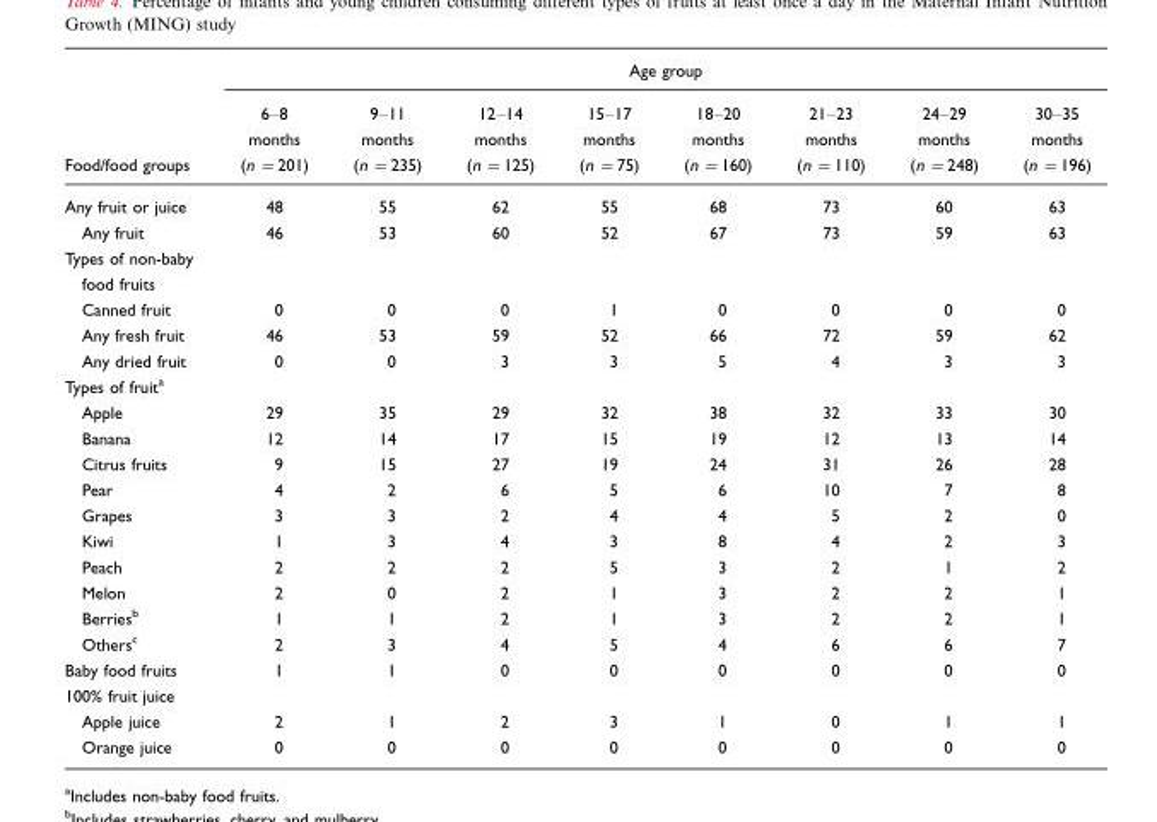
<table><thead><tr><td rowspan="2">Food/food groups</td><td colspan="8">Age group</td></tr><tr><td>6–8 months (n =201)</td><td>9–11 months (n =235)</td><td>12–14 months (n =125)</td><td>15–17 months (n =75)</td><td>18–20 months (n =160)</td><td>21–23 months (n =110)</td><td>24–29 months (n =248)</td><td>30–35 months (n =196)</td></tr></thead><tbody><tr><td>Any fruit or juice</td><td>48</td><td>55</td><td>62</td><td>55</td><td>68</td><td>73</td><td>60</td><td>63</td></tr><tr><td>Any fruit</td><td>46</td><td>53</td><td>60</td><td>52</td><td>67</td><td>73</td><td>59</td><td>63</td></tr><tr><td colspan="9">Types of non-baby food fruits</td></tr><tr><td>Canned fruit</td><td>0</td><td>0</td><td>0</td><td>1</td><td>0</td><td>0</td><td>0</td><td>0</td></tr><tr><td>Any fresh fruit</td><td>46</td><td>53</td><td>59</td><td>52</td><td>66</td><td>72</td><td>59</td><td>62</td></tr><tr><td>Any dried fruit</td><td>0</td><td>0</td><td>3</td><td>3</td><td>5</td><td>4</td><td>3</td><td>3</td></tr><tr><td colspan="9">Types of fruit<sup>a</sup></td></tr><tr><td>Apple</td><td>29</td><td>35</td><td>29</td><td>32</td><td>38</td><td>32</td><td>33</td><td>30</td></tr><tr><td>Banana</td><td>12</td><td>14</td><td>17</td><td>15</td><td>19</td><td>12</td><td>13</td><td>14</td></tr><tr><td>Citrus fruits</td><td>9</td><td>15</td><td>27</td><td>19</td><td>24</td><td>31</td><td>26</td><td>28</td></tr><tr><td>Pear</td><td>4</td><td>2</td><td>6</td><td>5</td><td>6</td><td>10</td><td>7</td><td>8</td></tr><tr><td>Grapes</td><td>3</td><td>3</td><td>2</td><td>4</td><td>4</td><td>5</td><td>2</td><td>0</td></tr><tr><td>Kiwi</td><td>1</td><td>3</td><td>4</td><td>3</td><td>8</td><td>4</td><td>2</td><td>3</td></tr><tr><td>Peach</td><td>2</td><td>2</td><td>2</td><td>5</td><td>3</td><td>2</td><td>1</td><td>2</td></tr><tr><td>Melon</td><td>2</td><td>0</td><td>2</td><td>1</td><td>3</td><td>2</td><td>2</td><td>1</td></tr><tr><td>Berries<sup>b</sup></td><td>1</td><td>1</td><td>2</td><td>1</td><td>3</td><td>2</td><td>2</td><td>1</td></tr><tr><td>Others<sup>c</sup></td><td>2</td><td>3</td><td>4</td><td>5</td><td>4</td><td>6</td><td>6</td><td>7</td></tr><tr><td>Baby food fruits</td><td>1</td><td>1</td><td>0</td><td>0</td><td>0</td><td>0</td><td>0</td><td>0</td></tr><tr><td colspan="9">100% fruit juice</td></tr><tr><td>Apple juice</td><td>2</td><td>1</td><td>2</td><td>3</td><td>1</td><td>0</td><td>1</td><td>1</td></tr><tr><td>Orange juice</td><td>0</td><td>0</td><td>0</td><td>0</td><td>0</td><td>0</td><td>0</td><td>0</td></tr></tbody></table>